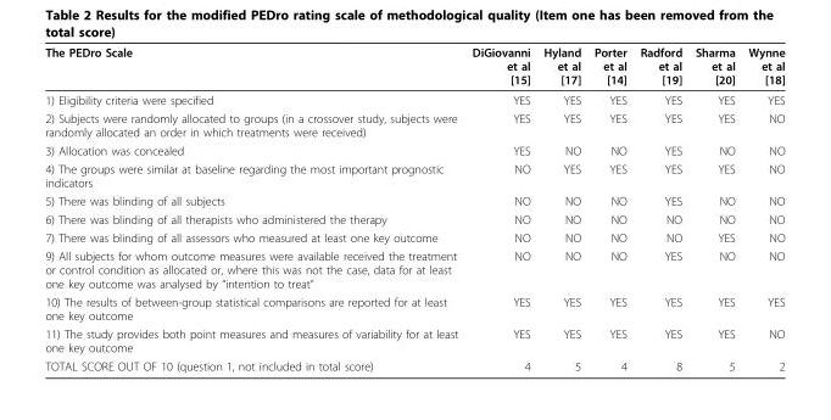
<table><thead><tr><td>The PEDro Scale</td><td>DiGiovanni et al [15]</td><td>Hyland et al [17]</td><td>Porter et al [14]</td><td>Radford et al [19]</td><td>Sharma et al [20]</td><td>Wynne et al [18]</td></tr></thead><tbody><tr><td>1) Eligibility criteria were specified</td><td>YES</td><td>YES</td><td>YES</td><td>YES</td><td>YES</td><td>YES</td></tr><tr><td>2) Subjects were randomly allocated to groups (in a crossover study, subjects were randomly allocated an order in which treatments were received)</td><td>YES</td><td>YES</td><td>YES</td><td>YES</td><td>YES</td><td>NO</td></tr><tr><td>3) Allocation was concealed</td><td>YES</td><td>NO</td><td>NO</td><td>YES</td><td>NO</td><td>NO</td></tr><tr><td>4) The groups were similar at baseline regarding the most important prognostic indicators</td><td>NO</td><td>YES</td><td>YES</td><td>YES</td><td>YES</td><td>NO</td></tr><tr><td>5) There was blinding of all subjects</td><td>NO</td><td>NO</td><td>NO</td><td>YES</td><td>NO</td><td>NO</td></tr><tr><td>6) There was blinding of all therapists who administered the therapy</td><td>NO</td><td>NO</td><td>NO</td><td>NO</td><td>NO</td><td>NO</td></tr><tr><td>7) There was blinding of all assessors who measured at least one key outcome</td><td>NO</td><td>NO</td><td>NO</td><td>NO</td><td>YES</td><td>NO</td></tr><tr><td>9) All subjects for whom outcome measures were available received the treatment or control condition as allocated or, where this was not the case, data for at least one key outcome was analysed by “intention to treat”</td><td>NO</td><td>NO</td><td>NO</td><td>YES</td><td>NO</td><td>NO</td></tr><tr><td>10) The results of between-group statistical comparisons are reported for at least one key outcome</td><td>YES</td><td>YES</td><td>YES</td><td>YES</td><td>YES</td><td>YES</td></tr><tr><td>11) The study provides both point measures and measures of variability for at least one key outcome</td><td>YES</td><td>YES</td><td>YES</td><td>YES</td><td>YES</td><td>NO</td></tr><tr><td>TOTAL SCORE OUT OF 10 (question 1, not included in total score)</td><td>4</td><td>5</td><td>4</td><td>8</td><td>5</td><td>2</td></tr></tbody></table>